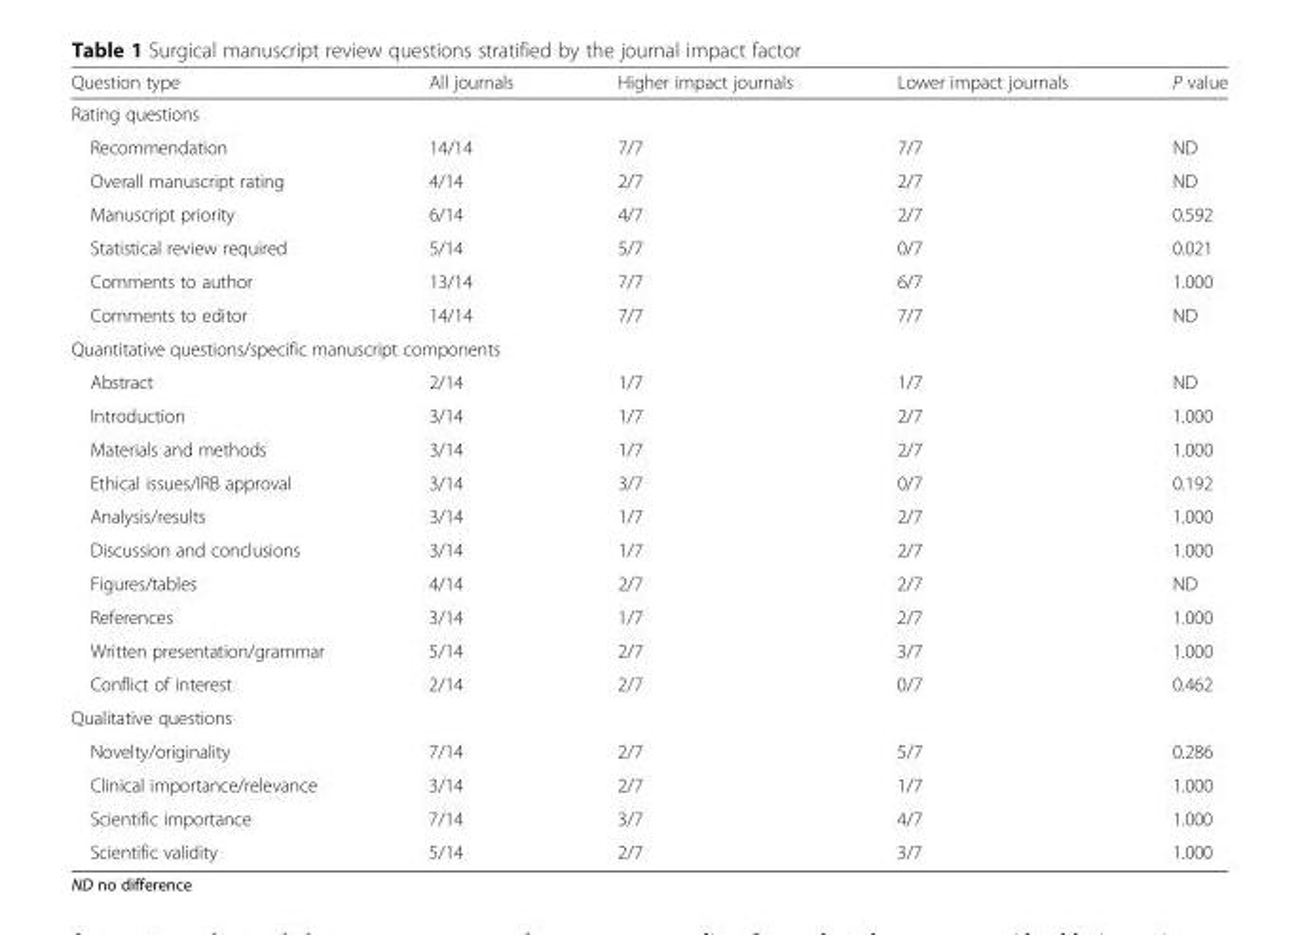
<table><thead><tr><td>Question type</td><td>All journals</td><td>Higher impact journals</td><td>Lower impact journals</td><td>P value</td></tr></thead><tbody><tr><td colspan="5">Rating questions</td></tr><tr><td>Recommendation</td><td>14/14</td><td>7/7</td><td>7/7</td><td>ND</td></tr><tr><td>Overall manuscript rating</td><td>4/14</td><td>2/7</td><td>2/7</td><td>ND</td></tr><tr><td>Manuscript priority</td><td>6/14</td><td>4/7</td><td>2/7</td><td>0.592</td></tr><tr><td>Statistical review required</td><td>5/14</td><td>5/7</td><td>0/7</td><td>0.021</td></tr><tr><td>Comments to author</td><td>13/14</td><td>7/7</td><td>6/7</td><td>1.000</td></tr><tr><td>Comments to editor</td><td>14/14</td><td>7/7</td><td>7/7</td><td>ND</td></tr><tr><td colspan="5">Quantitative questions/specific manuscript components</td></tr><tr><td>Abstract</td><td>2/14</td><td>1/7</td><td>1/7</td><td>ND</td></tr><tr><td>Introduction</td><td>3/14</td><td>1/7</td><td>2/7</td><td>1.000</td></tr><tr><td>Materials and methods</td><td>3/14</td><td>1/7</td><td>2/7</td><td>1.000</td></tr><tr><td>Ethical issues/IRB approval</td><td>3/14</td><td>3/7</td><td>0/7</td><td>0.192</td></tr><tr><td>Analysis/results</td><td>3/14</td><td>1/7</td><td>2/7</td><td>1.000</td></tr><tr><td>Discussion and conclusions</td><td>3/14</td><td>1/7</td><td>2/7</td><td>1.000</td></tr><tr><td>Figures/tables</td><td>4/14</td><td>2/7</td><td>2/7</td><td>ND</td></tr><tr><td>References</td><td>3/14</td><td>1/7</td><td>2/7</td><td>1.000</td></tr><tr><td>Written presentation/grammar</td><td>5/14</td><td>2/7</td><td>3/7</td><td>1.000</td></tr><tr><td>Conflict of interest</td><td>2/14</td><td>2/7</td><td>0/7</td><td>0.462</td></tr><tr><td colspan="5">Qualitative questions</td></tr><tr><td>Novelty/originality</td><td>7/14</td><td>2/7</td><td>5/7</td><td>0.286</td></tr><tr><td>Clinical importance/relevance</td><td>3/14</td><td>2/7</td><td>1/7</td><td>1.000</td></tr><tr><td>Scientific importance</td><td>7/14</td><td>3/7</td><td>4/7</td><td>1.000</td></tr><tr><td>Scientific validity</td><td>5/14</td><td>2/7</td><td>3/7</td><td>1.000</td></tr></tbody></table>